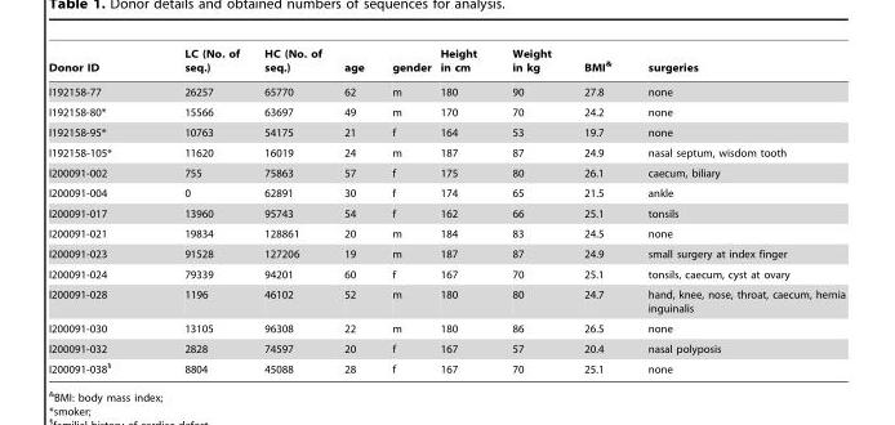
<table><thead><tr><td>Donor ID</td><td>LC (No. of seq.)</td><td>HC (No. of seq.)</td><td>age</td><td>gender</td><td>Height in cm</td><td>Weight in kg</td><td>BMI&amp;</td><td>surgeries</td></tr></thead><tbody><tr><td>I192158-77</td><td>26257</td><td>65770</td><td>62</td><td>m</td><td>180</td><td>90</td><td>27.8</td><td>none</td></tr><tr><td>I192158-80*</td><td>15566</td><td>63697</td><td>49</td><td>m</td><td>170</td><td>70</td><td>24.2</td><td>none</td></tr><tr><td>I192158-95*</td><td>10763</td><td>54175</td><td>21</td><td>f</td><td>164</td><td>53</td><td>19.7</td><td>none</td></tr><tr><td>I192158-105*</td><td>11620</td><td>16019</td><td>24</td><td>m</td><td>187</td><td>87</td><td>24.9</td><td>nasal septum, wisdom tooth</td></tr><tr><td>I200091-002</td><td>755</td><td>75863</td><td>57</td><td>f</td><td>175</td><td>80</td><td>26.1</td><td>caecum, biliary</td></tr><tr><td>I200091-004</td><td>0</td><td>62891</td><td>30</td><td>f</td><td>174</td><td>65</td><td>21.5</td><td>ankle</td></tr><tr><td>I200091-017</td><td>13960</td><td>95743</td><td>54</td><td>f</td><td>162</td><td>66</td><td>25.1</td><td>tonsils</td></tr><tr><td>I200091-021</td><td>19834</td><td>128861</td><td>20</td><td>m</td><td>184</td><td>83</td><td>24.5</td><td>none</td></tr><tr><td>I200091-023</td><td>91528</td><td>127206</td><td>19</td><td>m</td><td>187</td><td>87</td><td>24.9</td><td>small surgery at index finger</td></tr><tr><td>I200091-024</td><td>79339</td><td>94201</td><td>60</td><td>f</td><td>167</td><td>70</td><td>25.1</td><td>tonsils, caecum, cyst at ovary</td></tr><tr><td>I200091-028</td><td>1196</td><td>46102</td><td>52</td><td>m</td><td>180</td><td>80</td><td>24.7</td><td>hand, knee, nose, throat, caecum, hernia inguinalis</td></tr><tr><td>I200091-030</td><td>13105</td><td>96308</td><td>22</td><td>m</td><td>180</td><td>86</td><td>26.5</td><td>none</td></tr><tr><td>I200091-032</td><td>2828</td><td>74597</td><td>20</td><td>f</td><td>167</td><td>57</td><td>20.4</td><td>nasal polyposis</td></tr><tr><td>I200091-038§</td><td>8804</td><td>45088</td><td>28</td><td>f</td><td>167</td><td>70</td><td>25.1</td><td>none</td></tr></tbody></table>